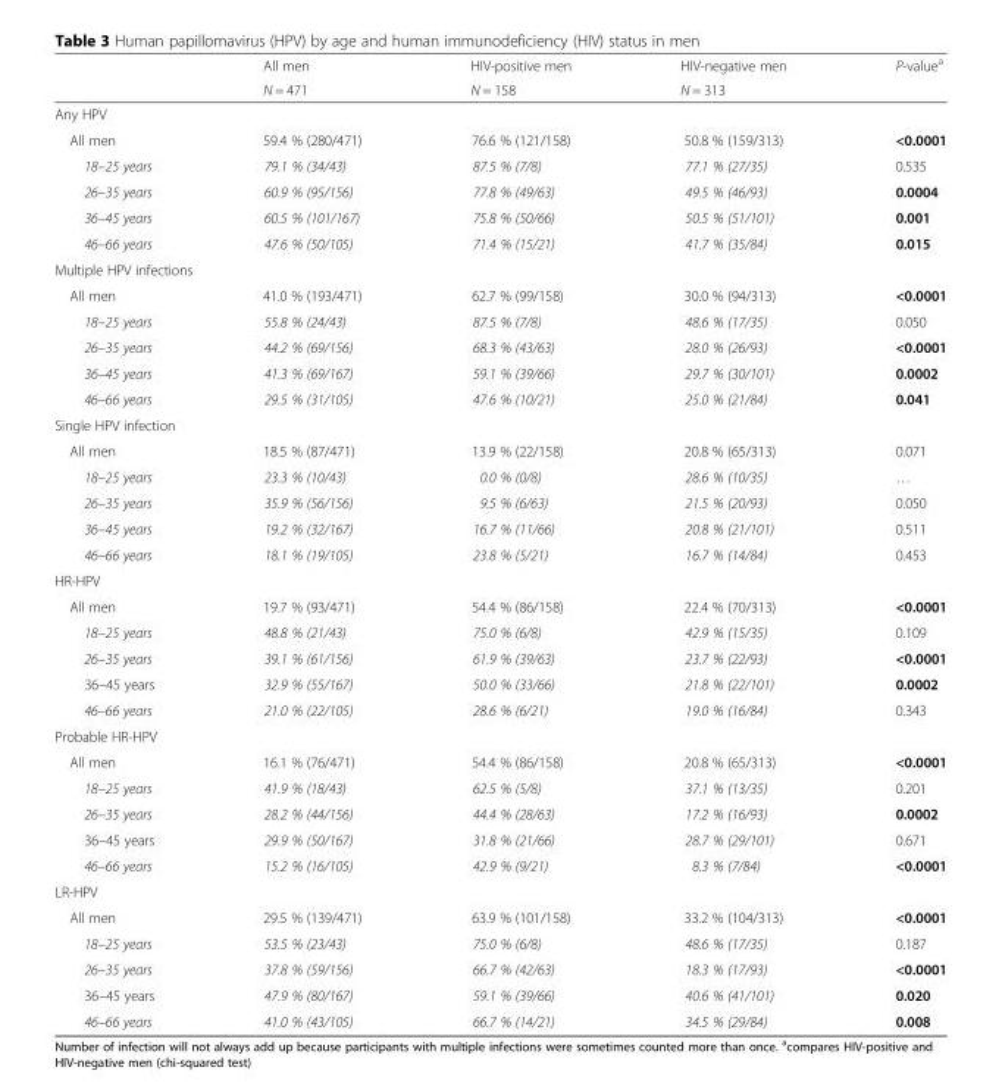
<table><thead><tr><td rowspan="2"></td><td rowspan="2">All men N = 471</td><td rowspan="2">HIV-positive men N = 158</td><td rowspan="2">HIV-negative men N = 313</td><td rowspan="2">P-value<sup>a</sup></td></tr><tr></tr></thead><tbody><tr><td colspan="5">Any HPV</td></tr><tr><td>All men</td><td>59.4 % (280/471)</td><td>76.6 % (121/158)</td><td>50.8 % (159/313)</td><td>&lt;0.0001</td></tr><tr><td>18–25 years</td><td>79.1 % (34/43)</td><td>87.5 % (7/8)</td><td>77.1 % (27/35)</td><td>0.535</td></tr><tr><td>26–35 years</td><td>60.9 % (95/156)</td><td>77.8 % (49/63)</td><td>49.5 % (46/93)</td><td>0.0004</td></tr><tr><td>36–45 years</td><td>60.5 % (101/167)</td><td>75.8 % (50/66)</td><td>50.5 % (51/101)</td><td>0.001</td></tr><tr><td>46–66 years</td><td>47.6 % (50/105)</td><td>71.4 % (15/21)</td><td>41.7 % (35/84)</td><td>0.015</td></tr><tr><td colspan="5">Multiple HPV infections</td></tr><tr><td>All men</td><td>41.0 % (193/471)</td><td>62.7 % (99/158)</td><td>30.0 % (94/313)</td><td>&lt;0.0001</td></tr><tr><td>18–25 years</td><td>55.8 % (24/43)</td><td>87.5 % (7/8)</td><td>48.6 % (17/35)</td><td>0.050</td></tr><tr><td>26–35 years</td><td>44.2 % (69/156)</td><td>68.3 % (43/63)</td><td>28.0 % (26/93)</td><td>&lt;0.0001</td></tr><tr><td>36–45 years</td><td>41.3 % (69/167)</td><td>59.1 % (39/66)</td><td>29.7 % (30/101)</td><td>0.0002</td></tr><tr><td>46–66 years</td><td>29.5 % (31/105)</td><td>47.6 % (10/21)</td><td>25.0 % (21/84)</td><td>0.041</td></tr><tr><td colspan="5">Single HPV infection</td></tr><tr><td>All men</td><td>18.5 % (87/471)</td><td>13.9 % (22/158)</td><td>20.8 % (65/313)</td><td>0.071</td></tr><tr><td>18–25 years</td><td>23.3 % (10/43)</td><td>0.0 % (0/8)</td><td>28.6 % (10/35)</td><td>…</td></tr><tr><td>26–35 years</td><td>35.9 % (56/156)</td><td>9.5 % (6/63)</td><td>21.5 % (20/93)</td><td>0.050</td></tr><tr><td>36–45 years</td><td>19.2 % (32/167)</td><td>16.7 % (11/66)</td><td>20.8 % (21/101)</td><td>0.511</td></tr><tr><td>46–66 years</td><td>18.1 % (19/105)</td><td>23.8 % (5/21)</td><td>16.7 % (14/84)</td><td>0.453</td></tr><tr><td colspan="5">HR-HPV</td></tr><tr><td>All men</td><td>19.7 % (93/471)</td><td>54.4 % (86/158)</td><td>22.4 % (70/313)</td><td>&lt;0.0001</td></tr><tr><td>18–25 years</td><td>48.8 % (21/43)</td><td>75.0 % (6/8)</td><td>42.9 % (15/35)</td><td>0.109</td></tr><tr><td>26–35 years</td><td>39.1 % (61/156)</td><td>61.9 % (39/63)</td><td>23.7 % (22/93)</td><td>&lt;0.0001</td></tr><tr><td>36–45 years</td><td>32.9 % (55/167)</td><td>50.0 % (33/66)</td><td>21.8 % (22/101)</td><td>0.0002</td></tr><tr><td>46–66 years</td><td>21.0 % (22/105)</td><td>28.6 % (6/21)</td><td>19.0 % (16/84)</td><td>0.343</td></tr><tr><td colspan="5">Probable HR-HPV</td></tr><tr><td>All men</td><td>16.1 % (76/471)</td><td>54.4 % (86/158)</td><td>20.8 % (65/313)</td><td>&lt;0.0001</td></tr><tr><td>18–25 years</td><td>41.9 % (18/43)</td><td>62.5 % (5/8)</td><td>37.1 % (13/35)</td><td>0.201</td></tr><tr><td>26–35 years</td><td>28.2 % (44/156)</td><td>44.4 % (28/63)</td><td>17.2 % (16/93)</td><td>0.0002</td></tr><tr><td>36–45 years</td><td>29.9 % (50/167)</td><td>31.8 % (21/66)</td><td>28.7 % (29/101)</td><td>0.671</td></tr><tr><td>46–66 years</td><td>15.2 % (16/105)</td><td>42.9 % (9/21)</td><td>8.3 % (7/84)</td><td>&lt;0.0001</td></tr><tr><td colspan="5">LR-HPV</td></tr><tr><td>All men</td><td>29.5 % (139/471)</td><td>63.9 % (101/158)</td><td>33.2 % (104/313)</td><td>&lt;0.0001</td></tr><tr><td>18–25 years</td><td>53.5 % (23/43)</td><td>75.0 % (6/8)</td><td>48.6 % (17/35)</td><td>0.187</td></tr><tr><td>26–35 years</td><td>37.8 % (59/156)</td><td>66.7 % (42/63)</td><td>18.3 % (17/93)</td><td>&lt;0.0001</td></tr><tr><td>36–45 years</td><td>47.9 % (80/167)</td><td>59.1 % (39/66)</td><td>40.6 % (41/101)</td><td>0.020</td></tr><tr><td>46–66 years</td><td>41.0 % (43/105)</td><td>66.7 % (14/21)</td><td>34.5 % (29/84)</td><td>0.008</td></tr></tbody></table>